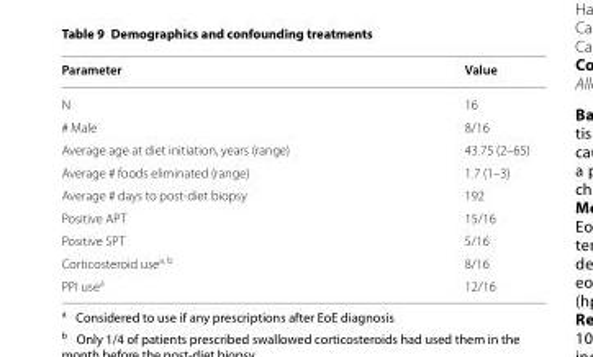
<table><thead><tr><td>Parameter</td><td>Value</td></tr></thead><tbody><tr><td>N</td><td>16</td></tr><tr><td># Male</td><td>8/16</td></tr><tr><td>Average age at diet initiation, years (range)</td><td>43.75 (2–65)</td></tr><tr><td>Average # foods eliminated (range)</td><td>1.7 (1–3)</td></tr><tr><td>Average # days to post‑diet biopsy</td><td>192</td></tr><tr><td>Positive APT</td><td>15/16</td></tr><tr><td>Positive SPT</td><td>5/16</td></tr><tr><td>Corticosteroid use<sup>a, b</sup></td><td>8/16</td></tr><tr><td>PPI use<sup>a</sup></td><td>12/16</td></tr></tbody></table>